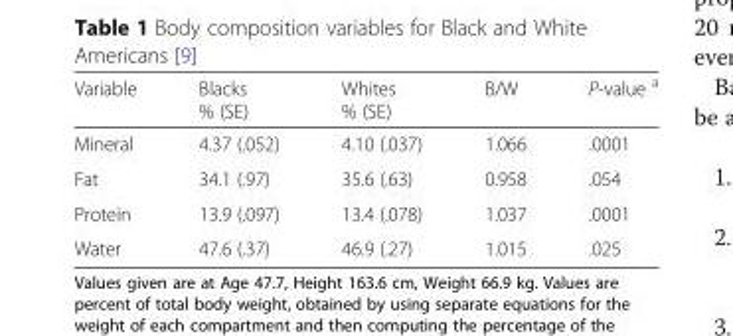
<table><thead><tr><td>Variable</td><td>Blacks % (SE)</td><td>Whites % (SE)</td><td>B/W</td><td>P-value <sup>a</sup></td></tr></thead><tbody><tr><td>Mineral</td><td>4.37 (.052)</td><td>4.10 (.037)</td><td>1.066</td><td>.0001</td></tr><tr><td>Fat</td><td>34.1 (.97)</td><td>35.6 (.63)</td><td>0.958</td><td>.054</td></tr><tr><td>Protein</td><td>13.9 (.097)</td><td>13.4 (.078)</td><td>1.037</td><td>.0001</td></tr><tr><td>Water</td><td>47.6 (.37)</td><td>46.9 (.27)</td><td>1.015</td><td>.025</td></tr></tbody></table>